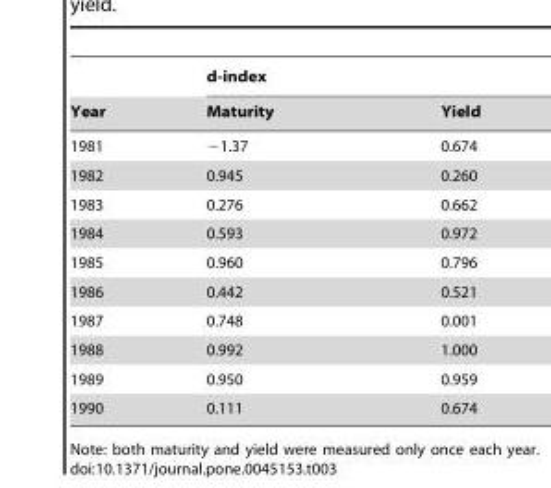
<table><thead><tr><td rowspan="2">Year</td><td colspan="2">d-index</td></tr><tr><td>Maturity</td><td>Yield</td></tr></thead><tbody><tr><td>1981</td><td>−1.37</td><td>0.674</td></tr><tr><td>1982</td><td>0.945</td><td>0.260</td></tr><tr><td>1983</td><td>0.276</td><td>0.662</td></tr><tr><td>1984</td><td>0.593</td><td>0.972</td></tr><tr><td>1985</td><td>0.960</td><td>0.796</td></tr><tr><td>1986</td><td>0.442</td><td>0.521</td></tr><tr><td>1987</td><td>0.748</td><td>0.001</td></tr><tr><td>1988</td><td>0.992</td><td>1.000</td></tr><tr><td>1989</td><td>0.950</td><td>0.959</td></tr><tr><td>1990</td><td>0.111</td><td>0.674</td></tr></tbody></table>